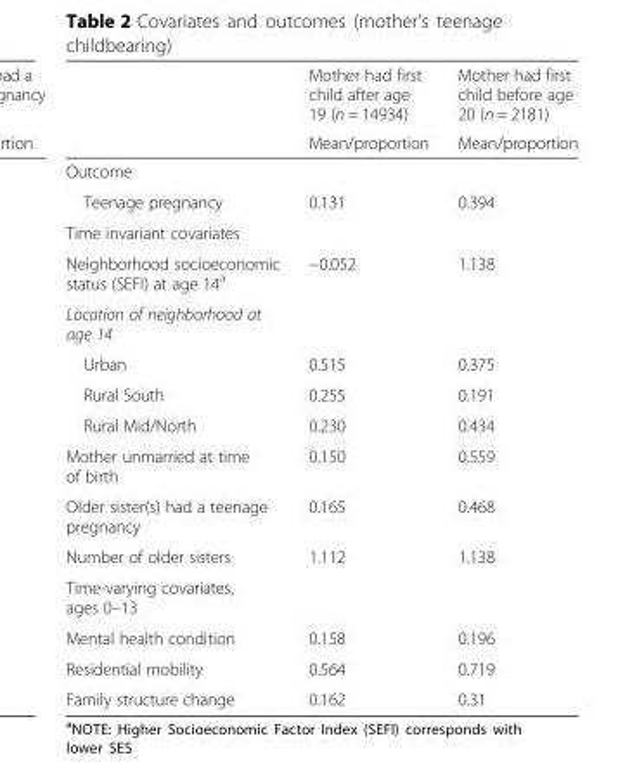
<table><thead><tr><td rowspan="2"></td><td rowspan="2">Mother had first child after age 19 (n = 14934) Mean/proportion</td><td rowspan="2">Mother had first child before age 20 (n = 2181) Mean/proportion</td></tr><tr></tr></thead><tbody><tr><td colspan="3">Outcome</td></tr><tr><td>Teenage pregnancy</td><td>0.131</td><td>0.394</td></tr><tr><td colspan="3">Time invariant covariates</td></tr><tr><td>Neighborhood socioeconomic status (SEFI) at age 14<sup>a</sup></td><td>−0.052</td><td>1.138</td></tr><tr><td colspan="3">Location of neighborhood at age 14</td></tr><tr><td>Urban</td><td>0.515</td><td>0.375</td></tr><tr><td>Rural South</td><td>0.255</td><td>0.191</td></tr><tr><td>Rural Mid/North</td><td>0.230</td><td>0.434</td></tr><tr><td>Mother unmarried at time of birth</td><td>0.150</td><td>0.559</td></tr><tr><td>Older sister(s) had a teenage pregnancy</td><td>0.165</td><td>0.468</td></tr><tr><td>Number of older sisters</td><td>1.112</td><td>1.138</td></tr><tr><td colspan="3">Time-varying covariates, ages 0–13</td></tr><tr><td>Mental health condition</td><td>0.158</td><td>0.196</td></tr><tr><td>Residential mobility</td><td>0.564</td><td>0.719</td></tr><tr><td>Family structure change</td><td>0.162</td><td>0.31</td></tr></tbody></table>